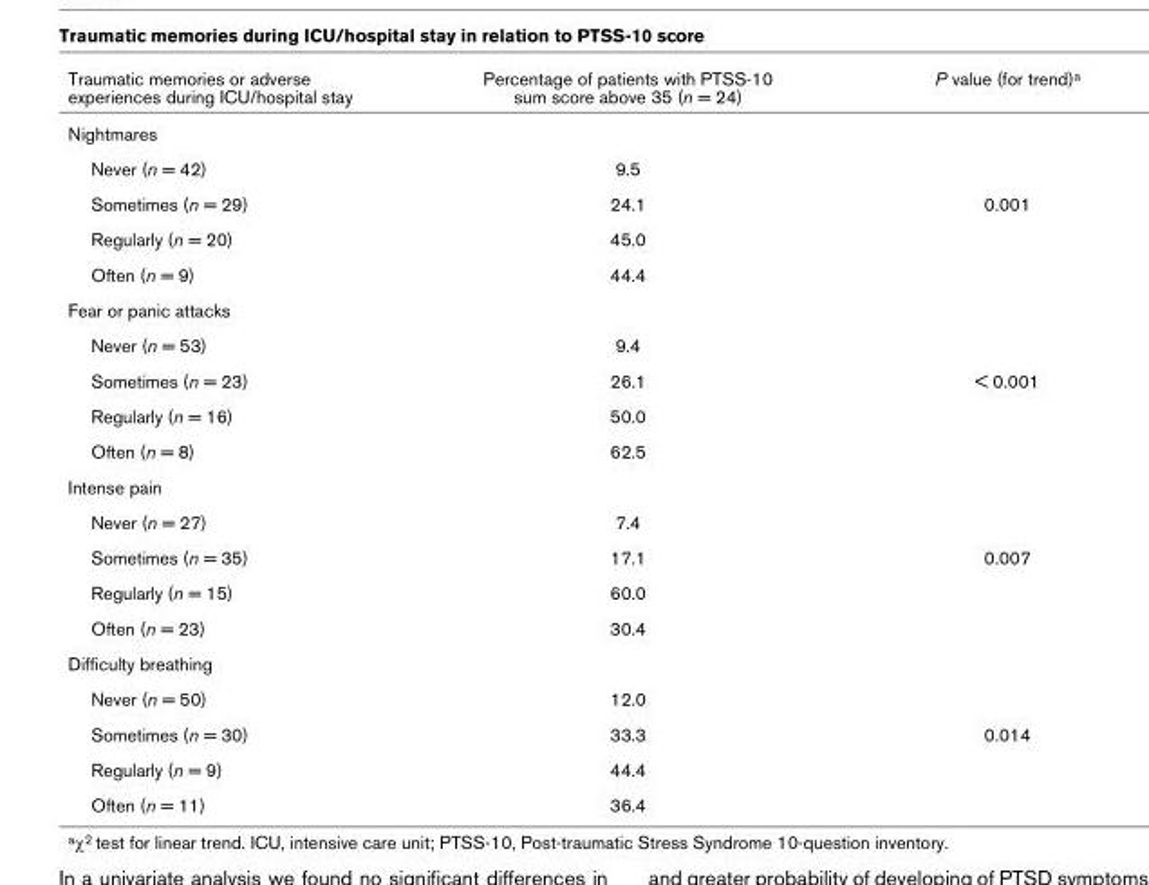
<table><thead><tr><td>Traumatic memories or adverse experiences during ICU/hospital stay</td><td>Percentage of patients with PTSS-10 sum score above 35 (n = 24)</td><td>P value (for trend)<sup>a</sup></td></tr></thead><tbody><tr><td colspan="3">Nightmares</td></tr><tr><td>Never (n = 42)</td><td>9.5</td><td></td></tr><tr><td>Sometimes (n = 29)</td><td>24.1</td><td>0.001</td></tr><tr><td>Regularly (n = 20)</td><td>45.0</td><td></td></tr><tr><td>Often (n = 9)</td><td>44.4</td><td></td></tr><tr><td colspan="3">Fear or panic attacks</td></tr><tr><td>Never (n = 53)</td><td>9.4</td><td></td></tr><tr><td>Sometimes (n = 23)</td><td>26.1</td><td>&lt; 0.001</td></tr><tr><td>Regularly (n = 16)</td><td>50.0</td><td></td></tr><tr><td>Often (n = 8)</td><td>62.5</td><td></td></tr><tr><td colspan="3">Intense pain</td></tr><tr><td>Never (n = 27)</td><td>7.4</td><td></td></tr><tr><td>Sometimes (n = 35)</td><td>17.1</td><td>0.007</td></tr><tr><td>Regularly (n = 15)</td><td>60.0</td><td></td></tr><tr><td>Often (n = 23)</td><td>30.4</td><td></td></tr><tr><td colspan="3">Difficulty breathing</td></tr><tr><td>Never (n = 50)</td><td>12.0</td><td></td></tr><tr><td>Sometimes (n = 30)</td><td>33.3</td><td>0.014</td></tr><tr><td>Regularly (n = 9)</td><td>44.4</td><td></td></tr><tr><td>Often (n = 11)</td><td>36.4</td><td></td></tr></tbody></table>